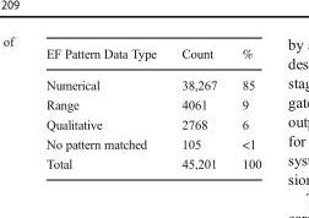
<table><thead><tr><td>EF Pattern Data Type</td><td>Count</td><td>%</td></tr></thead><tbody><tr><td>Numerical</td><td>38,267</td><td>85</td></tr><tr><td>Range</td><td>4061</td><td>9</td></tr><tr><td>Qualitative</td><td>2768</td><td>6</td></tr><tr><td>No pattern matched</td><td>105</td><td>&lt;1</td></tr><tr><td>Total</td><td>45,201</td><td>100</td></tr></tbody></table>